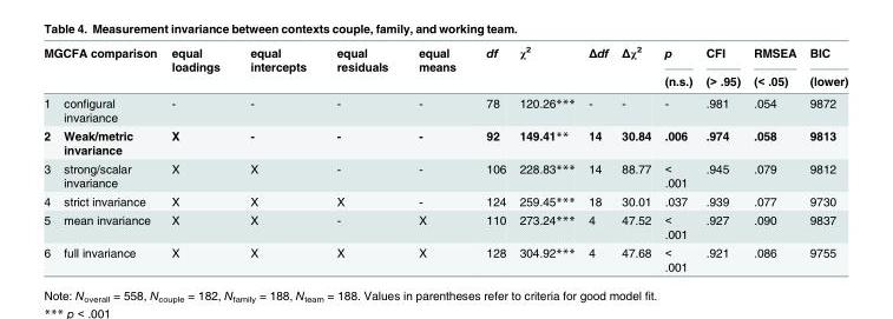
<table><thead><tr><td colspan="2">MGCFA comparison</td><td rowspan="2">equal loadings</td><td rowspan="2">equal intercepts</td><td rowspan="2">equal residuals</td><td rowspan="2">equal means</td><td rowspan="2">df</td><td rowspan="2">χ<sup>2</sup></td><td rowspan="2">Δdf</td><td rowspan="2">Δχ<sup>2</sup></td><td rowspan="2">p (n.s.)</td><td rowspan="2">CFI (&gt; .95)</td><td rowspan="2">RMSEA (&lt; .05)</td><td rowspan="2">BIC (lower)</td></tr><tr><td></td><td></td></tr></thead><tbody><tr><td>1</td><td>configural invariance</td><td>-</td><td>-</td><td>-</td><td>-</td><td>78</td><td>120.26***</td><td>-</td><td>-</td><td>-</td><td>.981</td><td>.054</td><td>9872</td></tr><tr><td>2</td><td>Weak/metric invariance</td><td>X</td><td>-</td><td>-</td><td>-</td><td>92</td><td>149.41**</td><td>14</td><td>30.84</td><td>.006</td><td>.974</td><td>.058</td><td>9813</td></tr><tr><td>3</td><td>strong/scalar invariance</td><td>X</td><td>X</td><td>-</td><td>-</td><td>106</td><td>228.83***</td><td>14</td><td>88.77</td><td>&lt; .001</td><td>.945</td><td>.079</td><td>9812</td></tr><tr><td>4</td><td>strict invariance</td><td>X</td><td>X</td><td>X</td><td>-</td><td>124</td><td>259.45***</td><td>18</td><td>30.01</td><td>.037</td><td>.939</td><td>.077</td><td>9730</td></tr><tr><td>5</td><td>mean invariance</td><td>X</td><td>X</td><td>-</td><td>X</td><td>110</td><td>273.24***</td><td>4</td><td>47.52</td><td>&lt; .001</td><td>.927</td><td>.090</td><td>9837</td></tr><tr><td>6</td><td>full invariance</td><td>X</td><td>X</td><td>X</td><td>X</td><td>128</td><td>304.92***</td><td>4</td><td>47.68</td><td>&lt; .001</td><td>.921</td><td>.086</td><td>9755</td></tr></tbody></table>